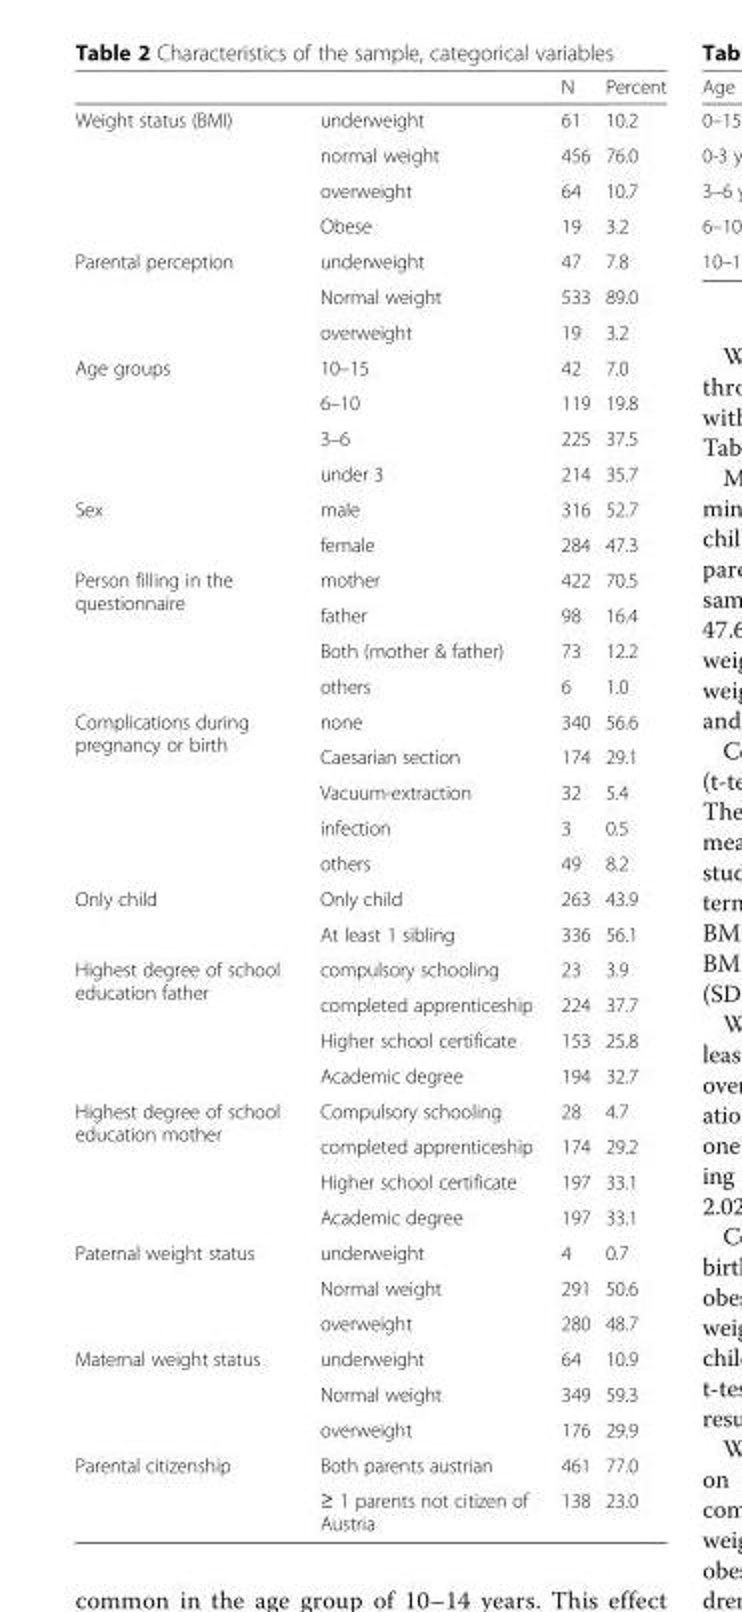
<table><thead><tr><td></td><td></td><td>N</td><td>Percent</td></tr></thead><tbody><tr><td rowspan="4">Weight status (BMI)</td><td>underweight</td><td>61</td><td>10.2</td></tr><tr><td>normal weight</td><td>456</td><td>76.0</td></tr><tr><td>overweight</td><td>64</td><td>10.7</td></tr><tr><td>Obese</td><td>19</td><td>3.2</td></tr><tr><td rowspan="3">Parental perception</td><td>underweight</td><td>47</td><td>7.8</td></tr><tr><td>Normal weight</td><td>533</td><td>89.0</td></tr><tr><td>overweight</td><td>19</td><td>3.2</td></tr><tr><td rowspan="4">Age groups</td><td>10–15</td><td>42</td><td>7.0</td></tr><tr><td>6–10</td><td>119</td><td>19.8</td></tr><tr><td>3–6</td><td>225</td><td>37.5</td></tr><tr><td>under 3</td><td>214</td><td>35.7</td></tr><tr><td rowspan="2">Sex</td><td>male</td><td>316</td><td>52.7</td></tr><tr><td>female</td><td>284</td><td>47.3</td></tr><tr><td rowspan="4">Person filling in the questionnaire</td><td>mother</td><td>422</td><td>70.5</td></tr><tr><td>father</td><td>98</td><td>16.4</td></tr><tr><td>Both (mother &amp; father)</td><td>73</td><td>12.2</td></tr><tr><td>others</td><td>6</td><td>1.0</td></tr><tr><td rowspan="5">Complications during pregnancy or birth</td><td>none</td><td>340</td><td>56.6</td></tr><tr><td>Caesarian section</td><td>174</td><td>29.1</td></tr><tr><td>Vacuum-extraction</td><td>32</td><td>5.4</td></tr><tr><td>infection</td><td>3</td><td>0.5</td></tr><tr><td>others</td><td>49</td><td>8.2</td></tr><tr><td rowspan="2">Only child</td><td>Only child</td><td>263</td><td>43.9</td></tr><tr><td>At least 1 sibling</td><td>336</td><td>56.1</td></tr><tr><td rowspan="4">Highest degree of school education father</td><td>compulsory schooling</td><td>23</td><td>3.9</td></tr><tr><td>completed apprenticeship</td><td>224</td><td>37.7</td></tr><tr><td>Higher school certificate</td><td>153</td><td>25.8</td></tr><tr><td>Academic degree</td><td>194</td><td>32.7</td></tr><tr><td rowspan="4">Highest degree of school education mother</td><td>Compulsory schooling</td><td>28</td><td>4.7</td></tr><tr><td>completed apprenticeship</td><td>174</td><td>29.2</td></tr><tr><td>Higher school certificate</td><td>197</td><td>33.1</td></tr><tr><td>Academic degree</td><td>197</td><td>33.1</td></tr><tr><td rowspan="3">Paternal weight status</td><td>underweight</td><td>4</td><td>0.7</td></tr><tr><td>Normal weight</td><td>291</td><td>50.6</td></tr><tr><td>overweight</td><td>280</td><td>48.7</td></tr><tr><td rowspan="3">Maternal weight status</td><td>underweight</td><td>64</td><td>10.9</td></tr><tr><td>Normal weight</td><td>349</td><td>59.3</td></tr><tr><td>overweight</td><td>176</td><td>29.9</td></tr><tr><td rowspan="2">Parental citizenship</td><td>Both parents austrian</td><td>461</td><td>77.0</td></tr><tr><td>≥ 1 parents not citizen of Austria</td><td>138</td><td>23.0</td></tr></tbody></table>